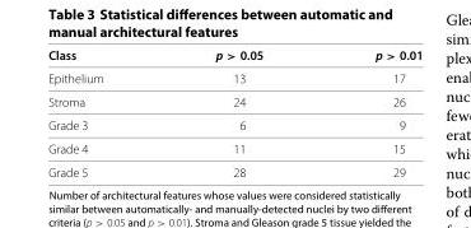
<table><thead><tr><td>Class</td><td>p &gt; 0.05</td><td>p &gt; 0.01</td></tr></thead><tbody><tr><td>Epithelium</td><td>13</td><td>17</td></tr><tr><td>Stroma</td><td>24</td><td>26</td></tr><tr><td>Grade 3</td><td>6</td><td>9</td></tr><tr><td>Grade 4</td><td>11</td><td>15</td></tr><tr><td>Grade 5</td><td>28</td><td>29</td></tr></tbody></table>